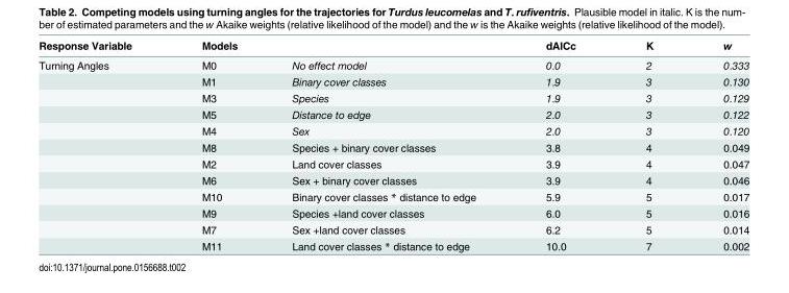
<table><thead><tr><td rowspan="2">Response Variable Turning Angles</td><td colspan="2">Models</td><td rowspan="2">dAICc 0.0</td><td rowspan="2">K 2</td><td rowspan="2">w 0.333</td></tr><tr><td>M0</td><td>No effect model</td></tr></thead><tbody><tr><td></td><td>M1</td><td>Binary cover classes</td><td>1.9</td><td>3</td><td>0.130</td></tr><tr><td></td><td>M3</td><td>Species</td><td>1.9</td><td>3</td><td>0.129</td></tr><tr><td></td><td>M5</td><td>Distance to edge</td><td>2.0</td><td>3</td><td>0.122</td></tr><tr><td></td><td>M4</td><td>Sex</td><td>2.0</td><td>3</td><td>0.120</td></tr><tr><td></td><td>M8</td><td>Species + binary cover classes</td><td>3.8</td><td>4</td><td>0.049</td></tr><tr><td></td><td>M2</td><td>Land cover classes</td><td>3.9</td><td>4</td><td>0.047</td></tr><tr><td></td><td>M6</td><td>Sex + binary cover classes</td><td>3.9</td><td>4</td><td>0.046</td></tr><tr><td></td><td>M10</td><td>Binary cover classes * distance to edge</td><td>5.9</td><td>5</td><td>0.017</td></tr><tr><td></td><td>M9</td><td>Species +land cover classes</td><td>6.0</td><td>5</td><td>0.016</td></tr><tr><td></td><td>M7</td><td>Sex +land cover classes</td><td>6.2</td><td>5</td><td>0.014</td></tr><tr><td></td><td>M11</td><td>Land cover classes * distance to edge</td><td>10.0</td><td>7</td><td>0.002</td></tr></tbody></table>